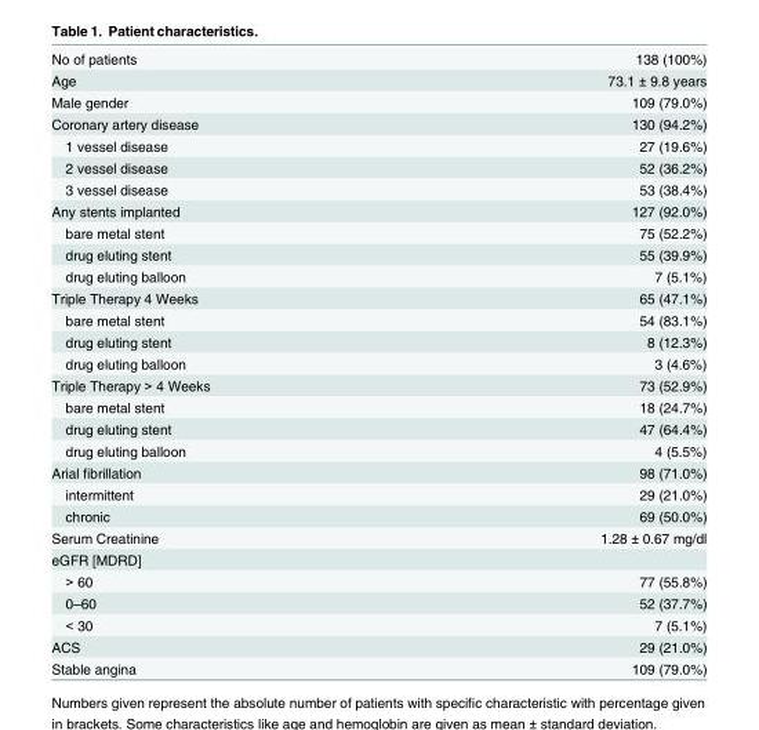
<table><tbody><tr><td>No of patients</td><td>138 (100%)</td></tr><tr><td>Age</td><td>73.1 ± 9.8 years</td></tr><tr><td>Male gender</td><td>109 (79.0%)</td></tr><tr><td>Coronary artery disease</td><td>130 (94.2%)</td></tr><tr><td>1 vessel disease</td><td>27 (19.6%)</td></tr><tr><td>2 vessel disease</td><td>52 (36.2%)</td></tr><tr><td>3 vessel disease</td><td>53 (38.4%)</td></tr><tr><td>Any stents implanted</td><td>127 (92.0%)</td></tr><tr><td>bare metal stent</td><td>75 (52.2%)</td></tr><tr><td>drug eluting stent</td><td>55 (39.9%)</td></tr><tr><td>drug eluting balloon</td><td>7 (5.1%)</td></tr><tr><td>Triple Therapy 4 Weeks</td><td>65 (47.1%)</td></tr><tr><td>bare metal stent</td><td>54 (83.1%)</td></tr><tr><td>drug eluting stent</td><td>8 (12.3%)</td></tr><tr><td>drug eluting balloon</td><td>3 (4.6%)</td></tr><tr><td>Triple Therapy &gt; 4 Weeks</td><td>73 (52.9%)</td></tr><tr><td>bare metal stent</td><td>18 (24.7%)</td></tr><tr><td>drug eluting stent</td><td>47 (64.4%)</td></tr><tr><td>drug eluting balloon</td><td>4 (5.5%)</td></tr><tr><td>Arial fibrillation</td><td>98 (71.0%)</td></tr><tr><td>intermittent</td><td>29 (21.0%)</td></tr><tr><td>chronic</td><td>69 (50.0%)</td></tr><tr><td>Serum Creatinine</td><td>1.28 ± 0.67 mg/dl</td></tr><tr><td colspan="2">eGFR [MDRD]</td></tr><tr><td>&gt; 60</td><td>77 (55.8%)</td></tr><tr><td>0–60</td><td>52 (37.7%)</td></tr><tr><td>&lt; 30</td><td>7 (5.1%)</td></tr><tr><td>ACS</td><td>29 (21.0%)</td></tr><tr><td>Stable angina</td><td>109 (79.0%)</td></tr></tbody></table>